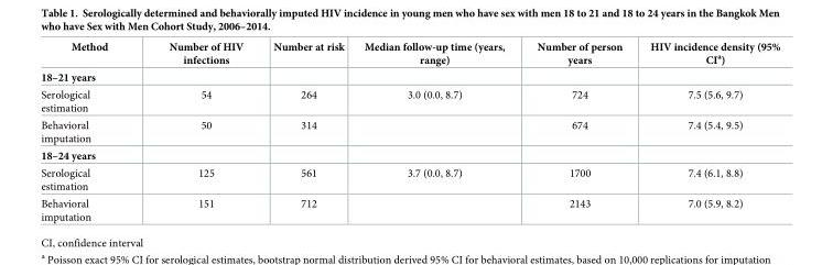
<table><thead><tr><td>Method</td><td>Number of HIV infections</td><td>Number at risk</td><td>Median follow-up time (years, range)</td><td>Number of person years</td><td>HIV incidence density (95% CI<sup>a</sup>)</td></tr></thead><tbody><tr><td colspan="6">18–21 years</td></tr><tr><td>Serological estimation</td><td>54</td><td>264</td><td>3.0 (0.0, 8.7)</td><td>724</td><td>7.5 (5.6, 9.7)</td></tr><tr><td>Behavioral imputation</td><td>50</td><td>314</td><td></td><td>674</td><td>7.4 (5.4, 9.5)</td></tr><tr><td colspan="6">18–24 years</td></tr><tr><td>Serological estimation</td><td>125</td><td>561</td><td>3.7 (0.0, 8.7)</td><td>1700</td><td>7.4 (6.1, 8.8)</td></tr><tr><td>Behavioral imputation</td><td>151</td><td>712</td><td></td><td>2143</td><td>7.0 (5.9, 8.2)</td></tr></tbody></table>